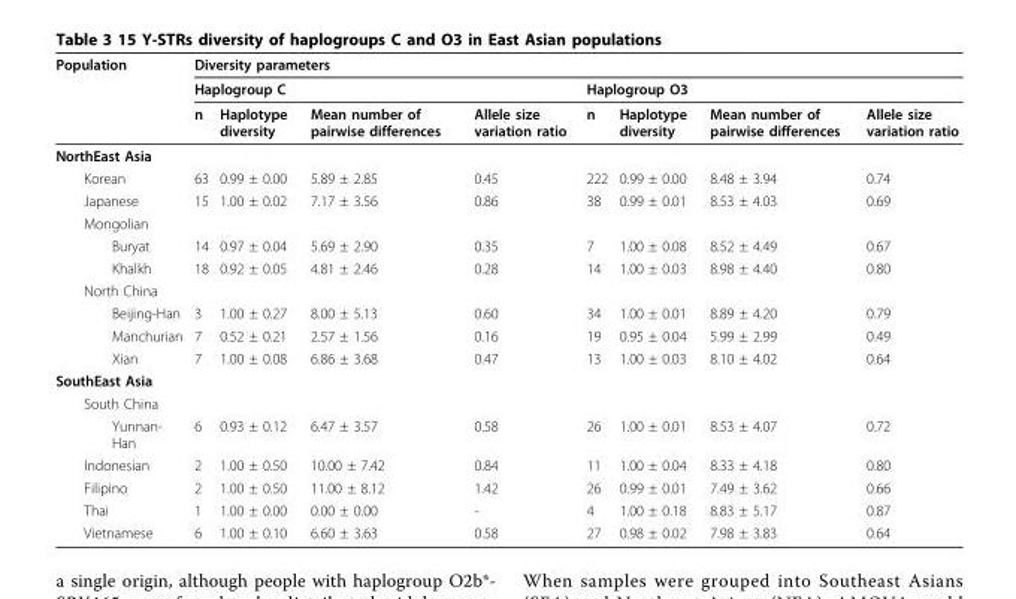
<table><tbody><tr><td rowspan="3">Population</td><td colspan="8">Diversity parameters</td></tr><tr><td colspan="4">Haplogroup C</td><td colspan="4">Haplogroup O3</td></tr><tr><td>n</td><td>Haplotype diversity</td><td>Mean number of pairwise differences</td><td>Allele size variation ratio</td><td>n</td><td>Haplotype diversity</td><td>Mean number of pairwise differences</td><td>Allele size variation ratio</td></tr><tr><td colspan="9">NorthEast Asia</td></tr><tr><td>Korean</td><td>63</td><td>0.99 ± 0.00</td><td>5.89 ± 2.85</td><td>0.45</td><td>222</td><td>0.99 ± 0.00</td><td>8.48 ± 3.94</td><td>0.74</td></tr><tr><td>Japanese</td><td>15</td><td>1.00 ± 0.02</td><td>7.17 ± 3.56</td><td>0.86</td><td>38</td><td>0.99 ± 0.01</td><td>8.53 ± 4.03</td><td>0.69</td></tr><tr><td colspan="9">Mongolian</td></tr><tr><td>Buryat</td><td>14</td><td>0.97 ± 0.04</td><td>5.69 ± 2.90</td><td>0.35</td><td>7</td><td>1.00 ± 0.08</td><td>8.52 ± 4.49</td><td>0.67</td></tr><tr><td>Khalkh</td><td>18</td><td>0.92 ± 0.05</td><td>4.81 ± 2.46</td><td>0.28</td><td>14</td><td>1.00 ± 0.03</td><td>8.98 ± 4.40</td><td>0.80</td></tr><tr><td colspan="9">North China</td></tr><tr><td>Beijing-Han</td><td>3</td><td>1.00 ± 0.27</td><td>8.00 ± 5.13</td><td>0.60</td><td>34</td><td>1.00 ± 0.01</td><td>8.89 ± 4.20</td><td>0.79</td></tr><tr><td>Manchurian</td><td>7</td><td>0.52 ± 0.21</td><td>2.57 ± 1.56</td><td>0.16</td><td>19</td><td>0.95 ± 0.04</td><td>5.99 ± 2.99</td><td>0.49</td></tr><tr><td>Xian</td><td>7</td><td>1.00 ± 0.08</td><td>6.86 ± 3.68</td><td>0.47</td><td>13</td><td>1.00 ± 0.03</td><td>8.10 ± 4.02</td><td>0.64</td></tr><tr><td colspan="9">SouthEast Asia</td></tr><tr><td colspan="9">South China</td></tr><tr><td>Yunnan- Han</td><td>6</td><td>0.93 ± 0.12</td><td>6.47 ± 3.57</td><td>0.58</td><td>26</td><td>1.00 ± 0.01</td><td>8.53 ± 4.07</td><td>0.72</td></tr><tr><td>Indonesian</td><td>2</td><td>1.00 ± 0.50</td><td>10.00 ± 7.42</td><td>0.84</td><td>11</td><td>1.00 ± 0.04</td><td>8.33 ± 4.18</td><td>0.80</td></tr><tr><td>Filipino</td><td>2</td><td>1.00 ± 0.50</td><td>11.00 ± 8.12</td><td>1.42</td><td>26</td><td>0.99 ± 0.01</td><td>7.49 ± 3.62</td><td>0.66</td></tr><tr><td>Thai</td><td>1</td><td>1.00 ± 0.00</td><td>0.00 ± 0.00</td><td>-</td><td>4</td><td>1.00 ± 0.18</td><td>8.83 ± 5.17</td><td>0.87</td></tr><tr><td>Vietnamese</td><td>6</td><td>1.00 ± 0.10</td><td>6.60 ± 3.63</td><td>0.58</td><td>27</td><td>0.98 ± 0.02</td><td>7.98 ± 3.83</td><td>0.64</td></tr></tbody></table>